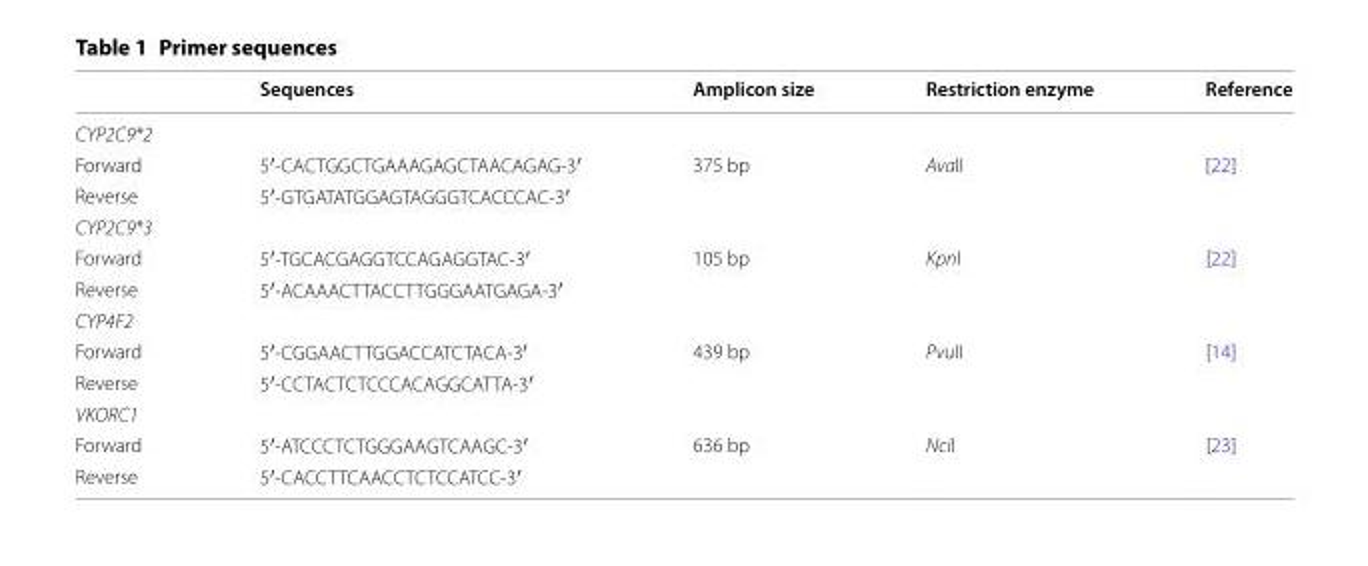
<table><thead><tr><td></td><td>Sequences</td><td>Amplicon size</td><td>Restriction enzyme</td><td>Reference</td></tr></thead><tbody><tr><td colspan="5">CYP2C9*2</td></tr><tr><td>Forward</td><td>5′-CACTGGCTGAAAGAGCTAACAGAG-3′</td><td rowspan="2">375 bp</td><td rowspan="2">AvaII</td><td rowspan="2">[22]</td></tr><tr><td>Reverse</td><td>5′-GTGATATGGAGTAGGGTCACCCAC-3′</td></tr><tr><td colspan="5">CYP2C9*3</td></tr><tr><td>Forward</td><td>5′-TGCACGAGGTCCAGAGGTAC-3′</td><td rowspan="2">105 bp</td><td rowspan="2">KpnI</td><td rowspan="2">[22]</td></tr><tr><td>Reverse</td><td>5′-ACAAACTTACCTTGGGAATGAGA-3′</td></tr><tr><td colspan="5">CYP4F2</td></tr><tr><td>Forward</td><td>5′-CGGAACTTGGACCATCTACA-3′</td><td rowspan="2">439 bp</td><td rowspan="2">PvuII</td><td rowspan="2">[14]</td></tr><tr><td>Reverse</td><td>5′-CCTACTCTCCCACAGGCATTA-3′</td></tr><tr><td colspan="5">VKORC1</td></tr><tr><td>Forward</td><td>5′-ATCCCTCTGGGAAGTCAAGC-3′</td><td rowspan="2">636 bp</td><td rowspan="2">NciI</td><td rowspan="2">[23]</td></tr><tr><td>Reverse</td><td>5′-CACCTTCAACCTCTCCATCC-3′</td></tr></tbody></table>